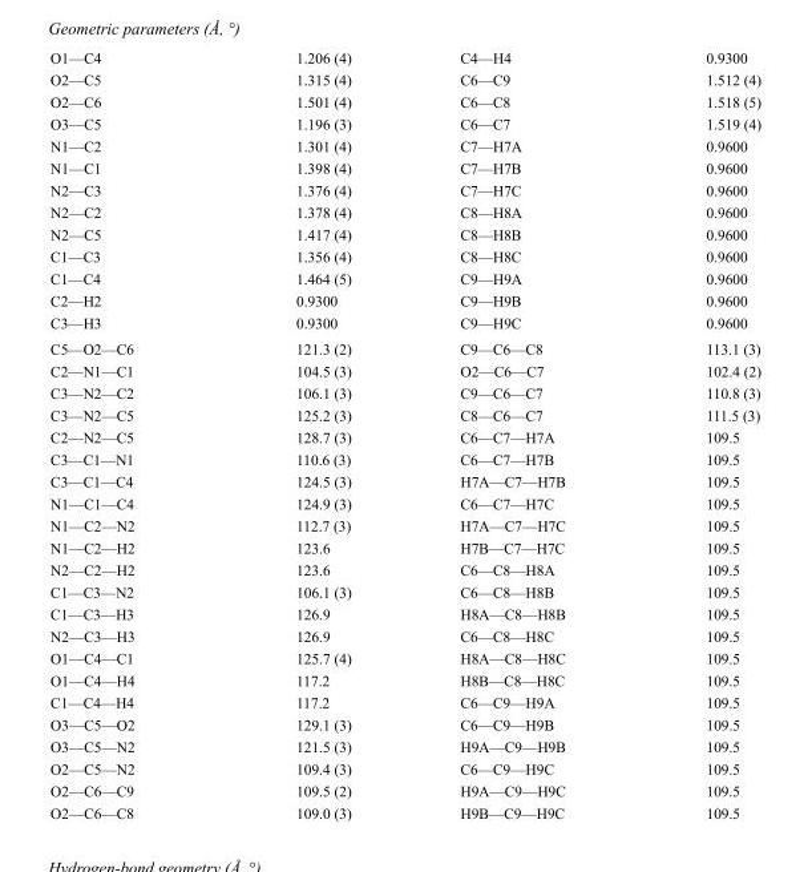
<table><tbody><tr><td>O1—C4</td><td>1.206 (4)</td><td>C4—H4</td><td>0.9300</td></tr><tr><td>O2—C5</td><td>1.315 (4)</td><td>C6—C9</td><td>1.512 (4)</td></tr><tr><td>O2—C6</td><td>1.501 (4)</td><td>C6—C8</td><td>1.518 (5)</td></tr><tr><td>O3—C5</td><td>1.196 (3)</td><td>C6—C7</td><td>1.519 (4)</td></tr><tr><td>N1—C2</td><td>1.301 (4)</td><td>C7—H7A</td><td>0.9600</td></tr><tr><td>N1—C1</td><td>1.398 (4)</td><td>C7—H7B</td><td>0.9600</td></tr><tr><td>N2—C3</td><td>1.376 (4)</td><td>C7—H7C</td><td>0.9600</td></tr><tr><td>N2—C2</td><td>1.378 (4)</td><td>C8—H8A</td><td>0.9600</td></tr><tr><td>N2—C5</td><td>1.417 (4)</td><td>C8—H8B</td><td>0.9600</td></tr><tr><td>C1—C3</td><td>1.356 (4)</td><td>C8—H8C</td><td>0.9600</td></tr><tr><td>C1—C4</td><td>1.464 (5)</td><td>C9—H9A</td><td>0.9600</td></tr><tr><td>C2—H2</td><td>0.9300</td><td>C9—H9B</td><td>0.9600</td></tr><tr><td>C3—H3</td><td>0.9300</td><td>C9—H9C</td><td>0.9600</td></tr><tr><td>C5—O2—C6</td><td>121.3 (2)</td><td>C9—C6—C8</td><td>113.1 (3)</td></tr><tr><td>C2—N1—C1</td><td>104.5 (3)</td><td>O2—C6—C7</td><td>102.4 (2)</td></tr><tr><td>C3—N2—C2</td><td>106.1 (3)</td><td>C9—C6—C7</td><td>110.8 (3)</td></tr><tr><td>C3—N2—C5</td><td>125.2 (3)</td><td>C8—C6—C7</td><td>111.5 (3)</td></tr><tr><td>C2—N2—C5</td><td>128.7 (3)</td><td>C6—C7—H7A</td><td>109.5</td></tr><tr><td>C3—C1—N1</td><td>110.6 (3)</td><td>C6—C7—H7B</td><td>109.5</td></tr><tr><td>C3—C1—C4</td><td>124.5 (3)</td><td>H7A—C7—H7B</td><td>109.5</td></tr><tr><td>N1—C1—C4</td><td>124.9 (3)</td><td>C6—C7—H7C</td><td>109.5</td></tr><tr><td>N1—C2—N2</td><td>112.7 (3)</td><td>H7A—C7—H7C</td><td>109.5</td></tr><tr><td>N1—C2—H2</td><td>123.6</td><td>H7B—C7—H7C</td><td>109.5</td></tr><tr><td>N2—C2—H2</td><td>123.6</td><td>C6—C8—H8A</td><td>109.5</td></tr><tr><td>C1—C3—N2</td><td>106.1 (3)</td><td>C6—C8—H8B</td><td>109.5</td></tr><tr><td>C1—C3—H3</td><td>126.9</td><td>H8A—C8—H8B</td><td>109.5</td></tr><tr><td>N2—C3—H3</td><td>126.9</td><td>C6—C8—H8C</td><td>109.5</td></tr><tr><td>O1—C4—C1</td><td>125.7 (4)</td><td>H8A—C8—H8C</td><td>109.5</td></tr><tr><td>O1—C4—H4</td><td>117.2</td><td>H8B—C8—H8C</td><td>109.5</td></tr><tr><td>C1—C4—H4</td><td>117.2</td><td>C6—C9—H9A</td><td>109.5</td></tr><tr><td>O3—C5—O2</td><td>129.1 (3)</td><td>C6—C9—H9B</td><td>109.5</td></tr><tr><td>O3—C5—N2</td><td>121.5 (3)</td><td>H9A—C9—H9B</td><td>109.5</td></tr><tr><td>O2—C5—N2</td><td>109.4 (3)</td><td>C6—C9—H9C</td><td>109.5</td></tr><tr><td>O2—C6—C9</td><td>109.5 (2)</td><td>H9A—C9—H9C</td><td>109.5</td></tr><tr><td>O2—C6—C8</td><td>109.0 (3)</td><td>H9B—C9—H9C</td><td>109.5</td></tr></tbody></table>